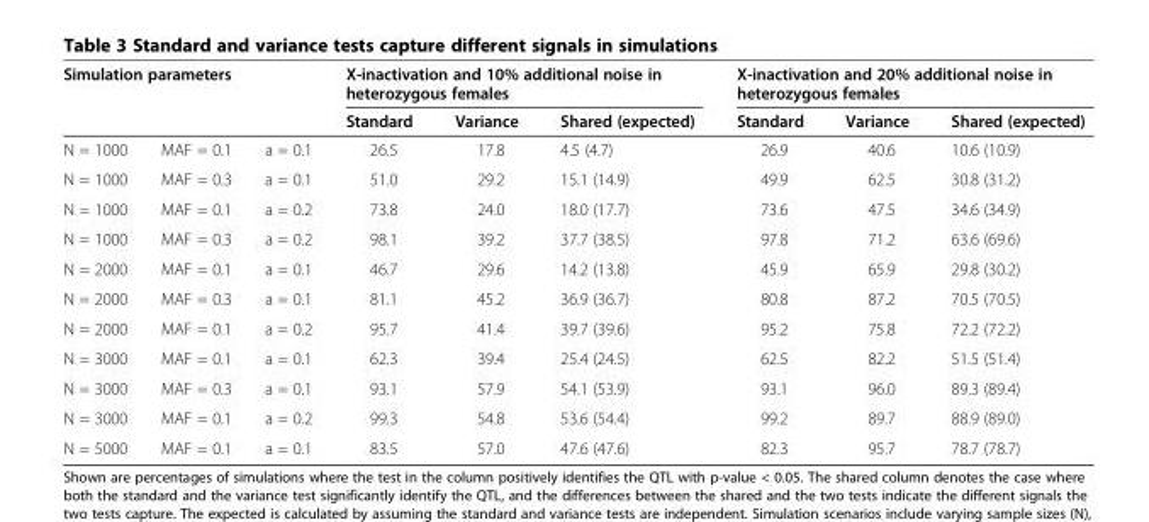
<table><thead><tr><td rowspan="2" colspan="3">Simulation parameters</td><td colspan="3">X-inactivation and 10% additional noise in heterozygous females</td><td colspan="3">X-inactivation and 20% additional noise in heterozygous females</td></tr><tr><td rowspan="2">Standard 26.5</td><td rowspan="2">Variance 17.8</td><td rowspan="2">Shared (expected) 4.5 (4.7)</td><td rowspan="2">Standard 26.9</td><td rowspan="2">Variance 40.6</td><td rowspan="2">Shared (expected) 10.6 (10.9)</td></tr><tr><td>N = 1000</td><td>MAF = 0.1</td><td>a = 0.1</td></tr></thead><tbody><tr><td>N = 1000</td><td>MAF = 0.3</td><td>a = 0.1</td><td>51.0</td><td>29.2</td><td>15.1 (14.9)</td><td>49.9</td><td>62.5</td><td>30.8 (31.2)</td></tr><tr><td>N = 1000</td><td>MAF = 0.1</td><td>a = 0.2</td><td>73.8</td><td>24.0</td><td>18.0 (17.7)</td><td>73.6</td><td>47.5</td><td>34.6 (34.9)</td></tr><tr><td>N = 1000</td><td>MAF = 0.3</td><td>a = 0.2</td><td>98.1</td><td>39.2</td><td>37.7 (38.5)</td><td>97.8</td><td>71.2</td><td>63.6 (69.6)</td></tr><tr><td>N = 2000</td><td>MAF = 0.1</td><td>a = 0.1</td><td>46.7</td><td>29.6</td><td>14.2 (13.8)</td><td>45.9</td><td>65.9</td><td>29.8 (30.2)</td></tr><tr><td>N = 2000</td><td>MAF = 0.3</td><td>a = 0.1</td><td>81.1</td><td>45.2</td><td>36.9 (36.7)</td><td>80.8</td><td>87.2</td><td>70.5 (70.5)</td></tr><tr><td>N = 2000</td><td>MAF = 0.1</td><td>a = 0.2</td><td>95.7</td><td>41.4</td><td>39.7 (39.6)</td><td>95.2</td><td>75.8</td><td>72.2 (72.2)</td></tr><tr><td>N = 3000</td><td>MAF = 0.1</td><td>a = 0.1</td><td>62.3</td><td>39.4</td><td>25.4 (24.5)</td><td>62.5</td><td>82.2</td><td>51.5 (51.4)</td></tr><tr><td>N = 3000</td><td>MAF = 0.3</td><td>a = 0.1</td><td>93.1</td><td>57.9</td><td>54.1 (53.9)</td><td>93.1</td><td>96.0</td><td>89.3 (89.4)</td></tr><tr><td>N = 3000</td><td>MAF = 0.1</td><td>a = 0.2</td><td>99.3</td><td>54.8</td><td>53.6 (54.4)</td><td>99.2</td><td>89.7</td><td>88.9 (89.0)</td></tr><tr><td>N = 5000</td><td>MAF = 0.1</td><td>a = 0.1</td><td>83.5</td><td>57.0</td><td>47.6 (47.6)</td><td>82.3</td><td>95.7</td><td>78.7 (78.7)</td></tr></tbody></table>